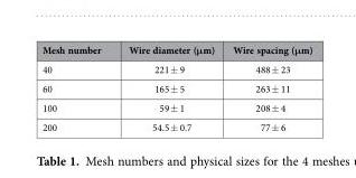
<table><thead><tr><td>Mesh number</td><td>Wire diameter (μm)</td><td>Wire spacing (μm)</td></tr></thead><tbody><tr><td>40</td><td>221 ± 9</td><td>488 ± 23</td></tr><tr><td>60</td><td>165 ± 5</td><td>263 ± 11</td></tr><tr><td>100</td><td>59 ± 1</td><td>208 ± 4</td></tr><tr><td>200</td><td>54.5 ± 0.7</td><td>77 ± 6</td></tr></tbody></table>